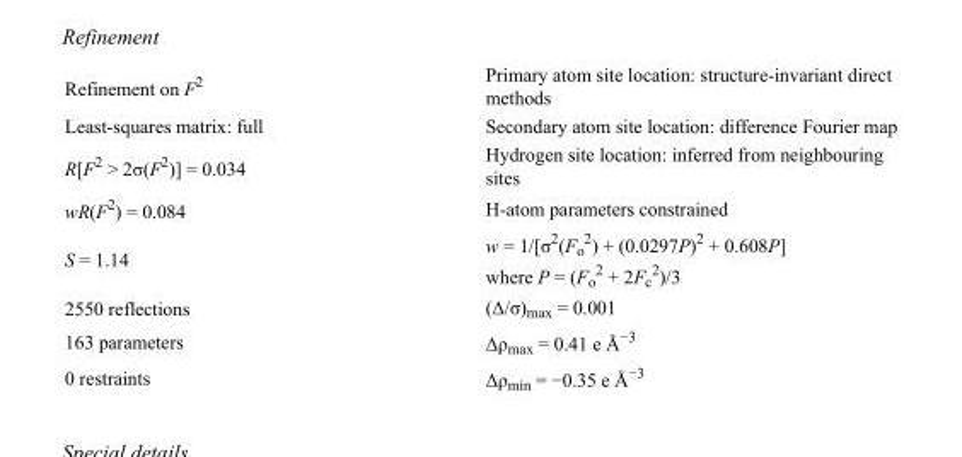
<table><tbody><tr><td>Refinement on F<sup>2</sup></td><td>Primary atom site location: structure-invariant direct methods</td></tr><tr><td>Least-squares matrix: full</td><td>Secondary atom site location: difference Fourier map</td></tr><tr><td>R[F<sup>2</sup> &gt; 2σ(F<sup>2</sup>)] = 0.034</td><td>Hydrogen site location: inferred from neighbouring sites</td></tr><tr><td>wR(F<sup>2</sup>) = 0.084</td><td>H-atom parameters constrained</td></tr><tr><td>S = 1.14</td><td>w = 1/[σ<sup>2</sup>(F<sub>o</sub> <sup>2</sup>) + (0.0297P)<sup>2</sup> + 0.608P] where P = (F<sub>o</sub> <sup>2</sup> + 2F<sub>c</sub> <sup>2</sup>)/3</td></tr><tr><td>2550 reflections</td><td>(Δ/σ)<sub>max</sub> = 0.001</td></tr><tr><td>163 parameters</td><td>Δρ<sub>max</sub> = 0.41 e Å<sup>−3</sup></td></tr><tr><td>0 restraints</td><td>Δρ<sub>min</sub> = −0.35 e Å<sup>−3</sup></td></tr></tbody></table>